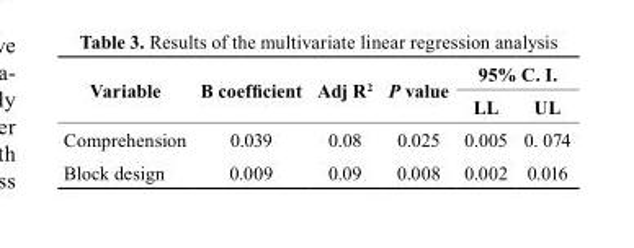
<table><thead><tr><td rowspan="2">Variable</td><td rowspan="2">B coefficient</td><td rowspan="2">Adj R<sup>2</sup></td><td rowspan="2">P value</td><td colspan="2">95% C. I.</td></tr><tr><td>LL</td><td>UL</td></tr></thead><tbody><tr><td>Comprehension</td><td>0.039</td><td>0.08</td><td>0.025</td><td>0.005</td><td>0. 074</td></tr><tr><td>Block design</td><td>0.009</td><td>0.09</td><td>0.008</td><td>0.002</td><td>0.016</td></tr></tbody></table>